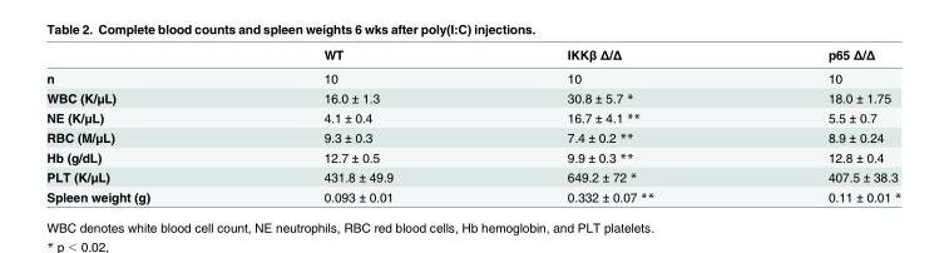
<table><thead><tr><td></td><td>WT</td><td>IKKβ Δ/Δ</td><td>p65 Δ/Δ</td></tr></thead><tbody><tr><td>n</td><td>10</td><td>10</td><td>10</td></tr><tr><td>WBC (K/μL)</td><td>16.0 ± 1.3</td><td>30.8 ± 5.7 *</td><td>18.0 ± 1.75</td></tr><tr><td>NE (K/μL)</td><td>4.1 ± 0.4</td><td>16.7 ± 4.1 **</td><td>5.5 ± 0.7</td></tr><tr><td>RBC (M/μL)</td><td>9.3 ± 0.3</td><td>7.4 ± 0.2 **</td><td>8.9 ± 0.24</td></tr><tr><td>Hb (g/dL)</td><td>12.7 ± 0.5</td><td>9.9 ± 0.3 **</td><td>12.8 ± 0.4</td></tr><tr><td>PLT (K/μL)</td><td>431.8 ± 49.9</td><td>649.2 ± 72 *</td><td>407.5 ± 38.3</td></tr><tr><td>Spleen weight (g)</td><td>0.093 ± 0.01</td><td>0.332 ± 0.07 **</td><td>0.11 ± 0.01 *</td></tr></tbody></table>